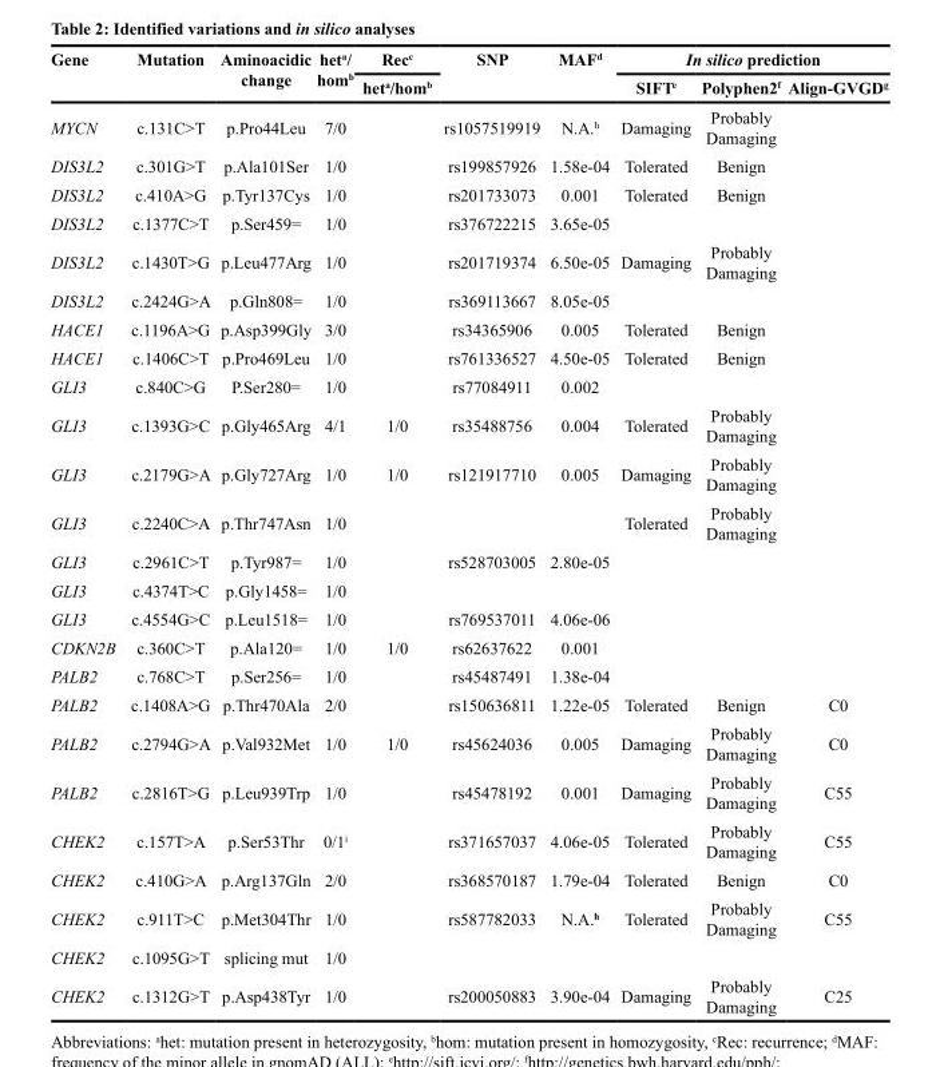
<table><thead><tr><td rowspan="2">Gene</td><td rowspan="2">Mutation</td><td rowspan="2">Aminoacidic change</td><td rowspan="2">het<sup>a</sup>/ hom<sup>b</sup></td><td rowspan="2">Rec<sup>c</sup> het<sup>a</sup>/hom<sup>b</sup></td><td rowspan="2">SNP</td><td rowspan="2">MAF<sup>d</sup></td><td colspan="3">In silico prediction</td></tr><tr><td>SIFT<sup>e</sup></td><td>Polyphen2<sup>f</sup></td><td>Align-GVGD<sup>g</sup></td></tr></thead><tbody><tr><td>MYCN</td><td>c.131C&gt;T</td><td>p.Pro44Leu</td><td>7/0</td><td></td><td>rs1057519919</td><td>N.A.<sup>h</sup></td><td>Damaging</td><td>Probably Damaging</td><td></td></tr><tr><td>DIS3L2</td><td>c.301G&gt;T</td><td>p.Ala101Ser</td><td>1/0</td><td></td><td>rs199857926</td><td>1.58e-04</td><td>Tolerated</td><td>Benign</td><td></td></tr><tr><td>DIS3L2</td><td>c.410A&gt;G</td><td>p.Tyr137Cys</td><td>1/0</td><td></td><td>rs201733073</td><td>0.001</td><td>Tolerated</td><td>Benign</td><td></td></tr><tr><td>DIS3L2</td><td>c.1377C&gt;T</td><td>p.Ser459=</td><td>1/0</td><td></td><td>rs376722215</td><td>3.65e-05</td><td></td><td></td><td></td></tr><tr><td>DIS3L2</td><td>c.1430T&gt;G</td><td>p.Leu477Arg</td><td>1/0</td><td></td><td>rs201719374</td><td>6.50e-05</td><td>Damaging</td><td>Probably Damaging</td><td></td></tr><tr><td>DIS3L2</td><td>c.2424G&gt;A</td><td>p.Gln808=</td><td>1/0</td><td></td><td>rs369113667</td><td>8.05e-05</td><td></td><td></td><td></td></tr><tr><td>HACE1</td><td>c.1196A&gt;G</td><td>p.Asp399Gly</td><td>3/0</td><td></td><td>rs34365906</td><td>0.005</td><td>Tolerated</td><td>Benign</td><td></td></tr><tr><td>HACE1</td><td>c.1406C&gt;T</td><td>p.Pro469Leu</td><td>1/0</td><td></td><td>rs761336527</td><td>4.50e-05</td><td>Tolerated</td><td>Benign</td><td></td></tr><tr><td>GLI3</td><td>c.840C&gt;G</td><td>P.Ser280=</td><td>1/0</td><td></td><td>rs77084911</td><td>0.002</td><td></td><td></td><td></td></tr><tr><td>GLI3</td><td>c.1393G&gt;C</td><td>p.Gly465Arg</td><td>4/1</td><td>1/0</td><td>rs35488756</td><td>0.004</td><td>Tolerated</td><td>Probably Damaging</td><td></td></tr><tr><td>GLI3</td><td>c.2179G&gt;A</td><td>p.Gly727Arg</td><td>1/0</td><td>1/0</td><td>rs121917710</td><td>0.005</td><td>Damaging</td><td>Probably Damaging</td><td></td></tr><tr><td>GLI3</td><td>c.2240C&gt;A</td><td>p.Thr747Asn</td><td>1/0</td><td></td><td></td><td></td><td>Tolerated</td><td>Probably Damaging</td><td></td></tr><tr><td>GLI3</td><td>c.2961C&gt;T</td><td>p.Tyr987=</td><td>1/0</td><td></td><td>rs528703005</td><td>2.80e-05</td><td></td><td></td><td></td></tr><tr><td>GLI3</td><td>c.4374T&gt;C</td><td>p.Gly1458=</td><td>1/0</td><td></td><td></td><td></td><td></td><td></td><td></td></tr><tr><td>GLI3</td><td>c.4554G&gt;C</td><td>p.Leu1518=</td><td>1/0</td><td></td><td>rs769537011</td><td>4.06e-06</td><td></td><td></td><td></td></tr><tr><td>CDKN2B</td><td>c.360C&gt;T</td><td>p.Ala120=</td><td>1/0</td><td>1/0</td><td>rs62637622</td><td>0.001</td><td></td><td></td><td></td></tr><tr><td>PALB2</td><td>c.768C&gt;T</td><td>p.Ser256=</td><td>1/0</td><td></td><td>rs45487491</td><td>1.38e-04</td><td></td><td></td><td></td></tr><tr><td>PALB2</td><td>c.1408A&gt;G</td><td>p.Thr470Ala</td><td>2/0</td><td></td><td>rs150636811</td><td>1.22e-05</td><td>Tolerated</td><td>Benign</td><td>C0</td></tr><tr><td>PALB2</td><td>c.2794G&gt;A</td><td>p.Val932Met</td><td>1/0</td><td>1/0</td><td>rs45624036</td><td>0.005</td><td>Damaging</td><td>Probably Damaging</td><td>C0</td></tr><tr><td>PALB2</td><td>c.2816T&gt;G</td><td>p.Leu939Trp</td><td>1/0</td><td></td><td>rs45478192</td><td>0.001</td><td>Damaging</td><td>Probably Damaging</td><td>C55</td></tr><tr><td>CHEK2</td><td>c.157T&gt;A</td><td>p.Ser53Thr</td><td>0/1<sup>i</sup></td><td></td><td>rs371657037</td><td>4.06e-05</td><td>Tolerated</td><td>Probably Damaging</td><td>C55</td></tr><tr><td>CHEK2</td><td>c.410G&gt;A</td><td>p.Arg137Gln</td><td>2/0</td><td></td><td>rs368570187</td><td>1.79e-04</td><td>Tolerated</td><td>Benign</td><td>C0</td></tr><tr><td>CHEK2</td><td>c.911T&gt;C</td><td>p.Met304Thr</td><td>1/0</td><td></td><td>rs587782033</td><td>N.A.<sup>h</sup></td><td>Tolerated</td><td>Probably Damaging</td><td>C55</td></tr><tr><td>CHEK2</td><td>c.1095G&gt;T</td><td>splicing mut</td><td>1/0</td><td></td><td></td><td></td><td></td><td></td><td></td></tr><tr><td>CHEK2</td><td>c.1312G&gt;T</td><td>p.Asp438Tyr</td><td>1/0</td><td></td><td>rs200050883</td><td>3.90e-04</td><td>Damaging</td><td>Probably Damaging</td><td>C25</td></tr></tbody></table>